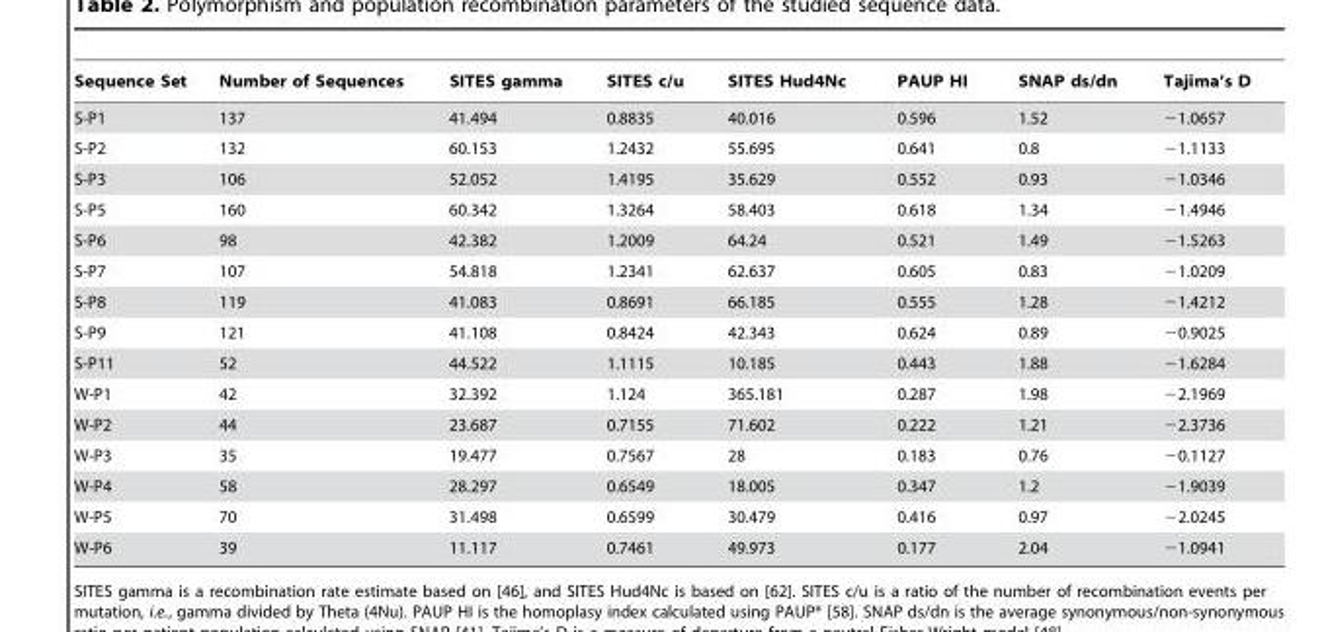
<table><thead><tr><td>Sequence Set</td><td>Number of Sequences</td><td>SITES gamma</td><td>SITES c/u</td><td>SITES Hud4Nc</td><td>PAUP HI</td><td>SNAP ds/dn</td><td>Tajima’s D</td></tr></thead><tbody><tr><td>S-P1</td><td>137</td><td>41.494</td><td>0.8835</td><td>40.016</td><td>0.596</td><td>1.52</td><td>−1.0657</td></tr><tr><td>S-P2</td><td>132</td><td>60.153</td><td>1.2432</td><td>55.695</td><td>0.641</td><td>0.8</td><td>−1.1133</td></tr><tr><td>S-P3</td><td>106</td><td>52.052</td><td>1.4195</td><td>35.629</td><td>0.552</td><td>0.93</td><td>−1.0346</td></tr><tr><td>S-P5</td><td>160</td><td>60.342</td><td>1.3264</td><td>58.403</td><td>0.618</td><td>1.34</td><td>−1.4946</td></tr><tr><td>S-P6</td><td>98</td><td>42.382</td><td>1.2009</td><td>64.24</td><td>0.521</td><td>1.49</td><td>−1.5263</td></tr><tr><td>S-P7</td><td>107</td><td>54.818</td><td>1.2341</td><td>62.637</td><td>0.605</td><td>0.83</td><td>−1.0209</td></tr><tr><td>S-P8</td><td>119</td><td>41.083</td><td>0.8691</td><td>66.185</td><td>0.555</td><td>1.28</td><td>−1.4212</td></tr><tr><td>S-P9</td><td>121</td><td>41.108</td><td>0.8424</td><td>42.343</td><td>0.624</td><td>0.89</td><td>−0.9025</td></tr><tr><td>S-P11</td><td>52</td><td>44.522</td><td>1.1115</td><td>10.185</td><td>0.443</td><td>1.88</td><td>−1.6284</td></tr><tr><td>W-P1</td><td>42</td><td>32.392</td><td>1.124</td><td>365.181</td><td>0.287</td><td>1.98</td><td>−2.1969</td></tr><tr><td>W-P2</td><td>44</td><td>23.687</td><td>0.7155</td><td>71.602</td><td>0.222</td><td>1.21</td><td>−2.3736</td></tr><tr><td>W-P3</td><td>35</td><td>19.477</td><td>0.7567</td><td>28</td><td>0.183</td><td>0.76</td><td>−0.1127</td></tr><tr><td>W-P4</td><td>58</td><td>28.297</td><td>0.6549</td><td>18.005</td><td>0.347</td><td>1.2</td><td>−1.9039</td></tr><tr><td>W-P5</td><td>70</td><td>31.498</td><td>0.6599</td><td>30.479</td><td>0.416</td><td>0.97</td><td>−2.0245</td></tr><tr><td>W-P6</td><td>39</td><td>11.117</td><td>0.7461</td><td>49.973</td><td>0.177</td><td>2.04</td><td>−1.0941</td></tr></tbody></table>